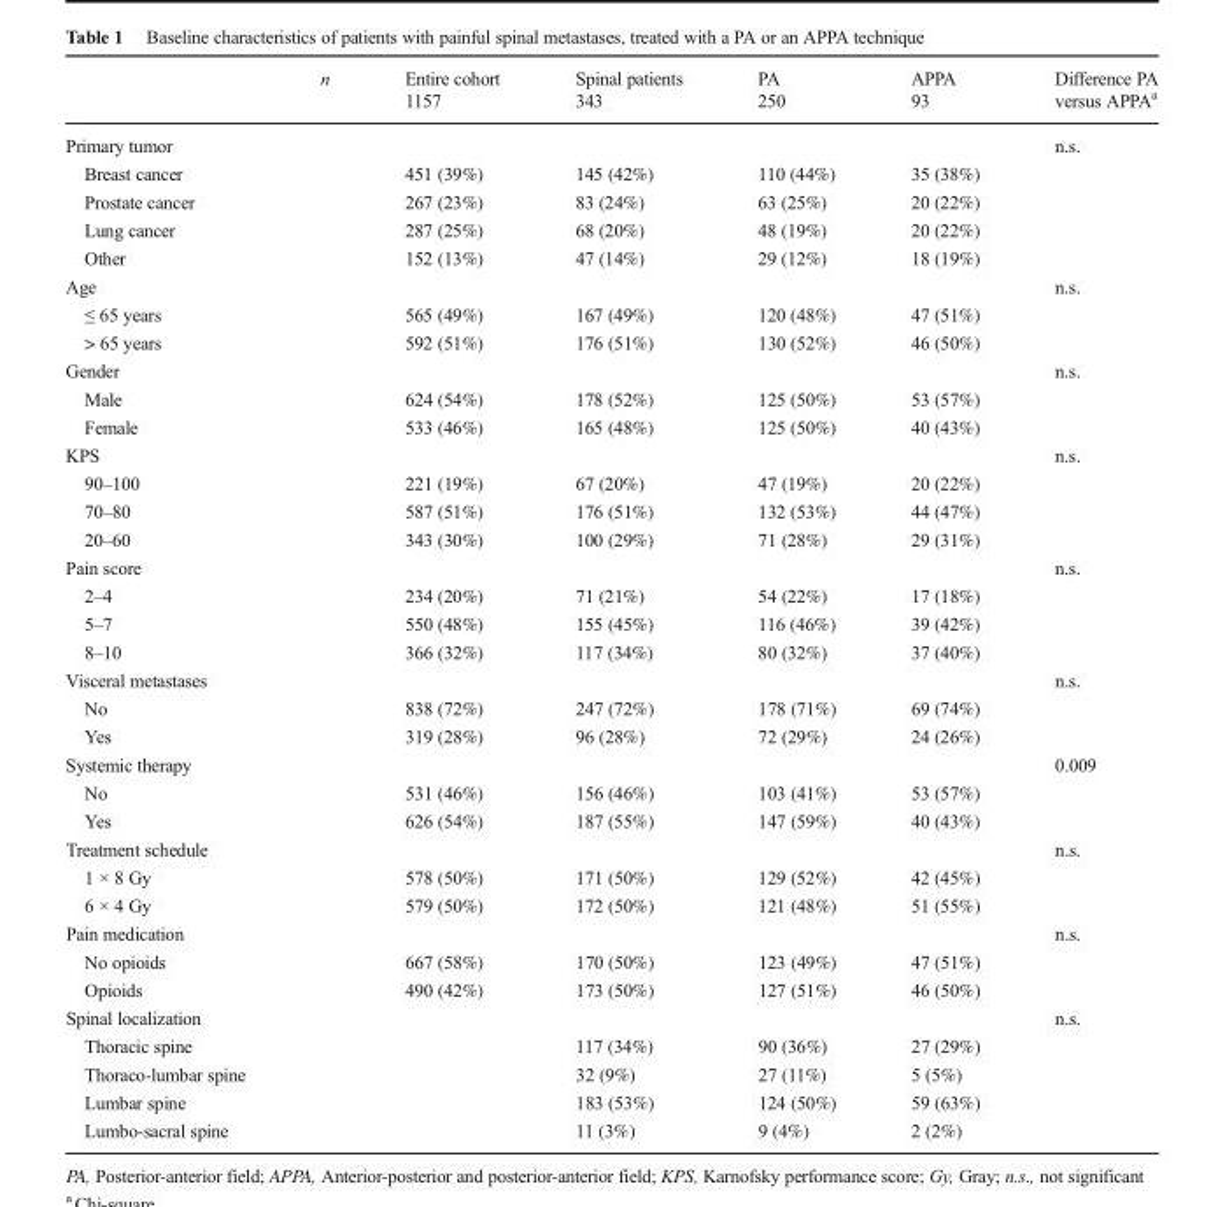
<table><thead><tr><td rowspan="2"></td><td rowspan="2">n</td><td rowspan="2">Entire cohort 1157</td><td rowspan="2">Spinal patients 343</td><td rowspan="2">PA 250</td><td rowspan="2">APPA 93</td><td rowspan="2">Difference PA versus APPA<sup>a</sup></td></tr><tr></tr></thead><tbody><tr><td>Primary tumor</td><td></td><td></td><td></td><td></td><td></td><td>n.s.</td></tr><tr><td>Breast cancer</td><td></td><td>451 (39%)</td><td>145 (42%)</td><td>110 (44%)</td><td>35 (38%)</td><td></td></tr><tr><td>Prostate cancer</td><td></td><td>267 (23%)</td><td>83 (24%)</td><td>63 (25%)</td><td>20 (22%)</td><td></td></tr><tr><td>Lung cancer</td><td></td><td>287 (25%)</td><td>68 (20%)</td><td>48 (19%)</td><td>20 (22%)</td><td></td></tr><tr><td>Other</td><td></td><td>152 (13%)</td><td>47 (14%)</td><td>29 (12%)</td><td>18 (19%)</td><td></td></tr><tr><td>Age</td><td></td><td></td><td></td><td></td><td></td><td>n.s.</td></tr><tr><td>≤ 65 years</td><td></td><td>565 (49%)</td><td>167 (49%)</td><td>120 (48%)</td><td>47 (51%)</td><td></td></tr><tr><td>&gt; 65 years</td><td></td><td>592 (51%)</td><td>176 (51%)</td><td>130 (52%)</td><td>46 (50%)</td><td></td></tr><tr><td>Gender</td><td></td><td></td><td></td><td></td><td></td><td>n.s.</td></tr><tr><td>Male</td><td></td><td>624 (54%)</td><td>178 (52%)</td><td>125 (50%)</td><td>53 (57%)</td><td></td></tr><tr><td>Female</td><td></td><td>533 (46%)</td><td>165 (48%)</td><td>125 (50%)</td><td>40 (43%)</td><td></td></tr><tr><td>KPS</td><td></td><td></td><td></td><td></td><td></td><td>n.s.</td></tr><tr><td>90–100</td><td></td><td>221 (19%)</td><td>67 (20%)</td><td>47 (19%)</td><td>20 (22%)</td><td></td></tr><tr><td>70–80</td><td></td><td>587 (51%)</td><td>176 (51%)</td><td>132 (53%)</td><td>44 (47%)</td><td></td></tr><tr><td>20–60</td><td></td><td>343 (30%)</td><td>100 (29%)</td><td>71 (28%)</td><td>29 (31%)</td><td></td></tr><tr><td>Pain score</td><td></td><td></td><td></td><td></td><td></td><td>n.s.</td></tr><tr><td>2–4</td><td></td><td>234 (20%)</td><td>71 (21%)</td><td>54 (22%)</td><td>17 (18%)</td><td></td></tr><tr><td>5–7</td><td></td><td>550 (48%)</td><td>155 (45%)</td><td>116 (46%)</td><td>39 (42%)</td><td></td></tr><tr><td>8–10</td><td></td><td>366 (32%)</td><td>117 (34%)</td><td>80 (32%)</td><td>37 (40%)</td><td></td></tr><tr><td>Visceral metastases</td><td></td><td></td><td></td><td></td><td></td><td>n.s.</td></tr><tr><td>No</td><td></td><td>838 (72%)</td><td>247 (72%)</td><td>178 (71%)</td><td>69 (74%)</td><td></td></tr><tr><td>Yes</td><td></td><td>319 (28%)</td><td>96 (28%)</td><td>72 (29%)</td><td>24 (26%)</td><td></td></tr><tr><td>Systemic therapy</td><td></td><td></td><td></td><td></td><td></td><td>0.009</td></tr><tr><td>No</td><td></td><td>531 (46%)</td><td>156 (46%)</td><td>103 (41%)</td><td>53 (57%)</td><td></td></tr><tr><td>Yes</td><td></td><td>626 (54%)</td><td>187 (55%)</td><td>147 (59%)</td><td>40 (43%)</td><td></td></tr><tr><td>Treatment schedule</td><td></td><td></td><td></td><td></td><td></td><td>n.s.</td></tr><tr><td>1 × 8 Gy</td><td></td><td>578 (50%)</td><td>171 (50%)</td><td>129 (52%)</td><td>42 (45%)</td><td></td></tr><tr><td>6 × 4 Gy</td><td></td><td>579 (50%)</td><td>172 (50%)</td><td>121 (48%)</td><td>51 (55%)</td><td></td></tr><tr><td>Pain medication</td><td></td><td></td><td></td><td></td><td></td><td>n.s.</td></tr><tr><td>No opioids</td><td></td><td>667 (58%)</td><td>170 (50%)</td><td>123 (49%)</td><td>47 (51%)</td><td></td></tr><tr><td>Opioids</td><td></td><td>490 (42%)</td><td>173 (50%)</td><td>127 (51%)</td><td>46 (50%)</td><td></td></tr><tr><td>Spinal localization</td><td></td><td></td><td></td><td></td><td></td><td>n.s.</td></tr><tr><td>Thoracic spine</td><td></td><td></td><td>117 (34%)</td><td>90 (36%)</td><td>27 (29%)</td><td></td></tr><tr><td>Thoraco-lumbar spine</td><td></td><td></td><td>32 (9%)</td><td>27 (11%)</td><td>5 (5%)</td><td></td></tr><tr><td>Lumbar spine</td><td></td><td></td><td>183 (53%)</td><td>124 (50%)</td><td>59 (63%)</td><td></td></tr><tr><td>Lumbo-sacral spine</td><td></td><td></td><td>11 (3%)</td><td>9 (4%)</td><td>2 (2%)</td><td></td></tr></tbody></table>